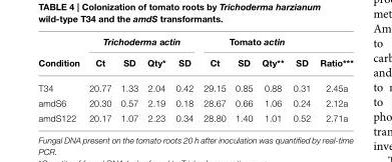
<table><thead><tr><td rowspan="2">Condition</td><td colspan="4">Trichoderma actin</td><td colspan="5">Tomato actin</td></tr><tr><td>Ct</td><td>SD</td><td>Qty*</td><td>SD</td><td>Ct</td><td>SD</td><td>Qty**</td><td>SD</td><td>Ratio***</td></tr></thead><tbody><tr><td>T34</td><td>20.77</td><td>1.33</td><td>2.04</td><td>0.42</td><td>29.15</td><td>0.85</td><td>0.88</td><td>0.31</td><td>2.45a</td></tr><tr><td>amdS6</td><td>20.30</td><td>0.57</td><td>2.19</td><td>0.18</td><td>28.67</td><td>0.66</td><td>1.06</td><td>0.24</td><td>2.12a</td></tr><tr><td>amdS122</td><td>20.17</td><td>1.07</td><td>2.23</td><td>0.34</td><td>28.80</td><td>1.40</td><td>1.01</td><td>0.52</td><td>2.71a</td></tr></tbody></table>